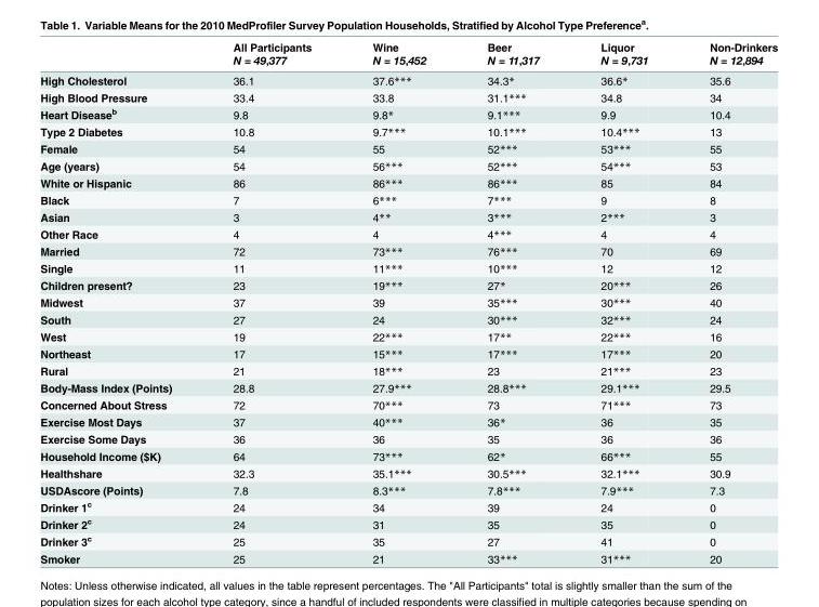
<table><thead><tr><td rowspan="2"></td><td rowspan="2">All Participants N = 49,377</td><td rowspan="2">Wine N = 15,452</td><td rowspan="2">Beer N = 11,317</td><td rowspan="2">Liquor N = 9,731</td><td rowspan="2">Non-Drinkers N = 12,894</td></tr><tr></tr></thead><tbody><tr><td>High Cholesterol</td><td>36.1</td><td>37.6***</td><td>34.3*</td><td>36.6*</td><td>35.6</td></tr><tr><td>High Blood Pressure</td><td>33.4</td><td>33.8</td><td>31.1***</td><td>34.8</td><td>34</td></tr><tr><td>Heart Disease<sup>b</sup></td><td>9.8</td><td>9.8*</td><td>9.1***</td><td>9.9</td><td>10.4</td></tr><tr><td>Type 2 Diabetes</td><td>10.8</td><td>9.7***</td><td>10.1***</td><td>10.4***</td><td>13</td></tr><tr><td>Female</td><td>54</td><td>55</td><td>52***</td><td>53***</td><td>55</td></tr><tr><td>Age (years)</td><td>54</td><td>56***</td><td>52***</td><td>54***</td><td>53</td></tr><tr><td>White or Hispanic</td><td>86</td><td>86***</td><td>86***</td><td>85</td><td>84</td></tr><tr><td>Black</td><td>7</td><td>6***</td><td>7***</td><td>9</td><td>8</td></tr><tr><td>Asian</td><td>3</td><td>4**</td><td>3***</td><td>2***</td><td>3</td></tr><tr><td>Other Race</td><td>4</td><td>4</td><td>4***</td><td>4</td><td>4</td></tr><tr><td>Married</td><td>72</td><td>73***</td><td>76***</td><td>70</td><td>69</td></tr><tr><td>Single</td><td>11</td><td>11***</td><td>10***</td><td>12</td><td>12</td></tr><tr><td>Children present?</td><td>23</td><td>19***</td><td>27*</td><td>20***</td><td>26</td></tr><tr><td>Midwest</td><td>37</td><td>39</td><td>35***</td><td>30***</td><td>40</td></tr><tr><td>South</td><td>27</td><td>24</td><td>30***</td><td>32***</td><td>24</td></tr><tr><td>West</td><td>19</td><td>22***</td><td>17**</td><td>22***</td><td>16</td></tr><tr><td>Northeast</td><td>17</td><td>15***</td><td>17***</td><td>17***</td><td>20</td></tr><tr><td>Rural</td><td>21</td><td>18***</td><td>23</td><td>21***</td><td>23</td></tr><tr><td>Body-Mass Index (Points)</td><td>28.8</td><td>27.9***</td><td>28.8***</td><td>29.1***</td><td>29.5</td></tr><tr><td>Concerned About Stress</td><td>72</td><td>70***</td><td>73</td><td>71***</td><td>73</td></tr><tr><td>Exercise Most Days</td><td>37</td><td>40***</td><td>36*</td><td>36</td><td>35</td></tr><tr><td>Exercise Some Days</td><td>36</td><td>36</td><td>35</td><td>36</td><td>36</td></tr><tr><td>Household Income ($K)</td><td>64</td><td>73***</td><td>62*</td><td>66***</td><td>55</td></tr><tr><td>Healthshare</td><td>32.3</td><td>35.1***</td><td>30.5***</td><td>32.1***</td><td>30.9</td></tr><tr><td>USDAscore (Points)</td><td>7.8</td><td>8.3***</td><td>7.8***</td><td>7.9***</td><td>7.3</td></tr><tr><td>Drinker 1<sup>c</sup></td><td>24</td><td>34</td><td>39</td><td>24</td><td>0</td></tr><tr><td>Drinker 2<sup>c</sup></td><td>24</td><td>31</td><td>35</td><td>35</td><td>0</td></tr><tr><td>Drinker 3<sup>c</sup></td><td>25</td><td>35</td><td>27</td><td>41</td><td>0</td></tr><tr><td>Smoker</td><td>25</td><td>21</td><td>33***</td><td>31***</td><td>20</td></tr></tbody></table>